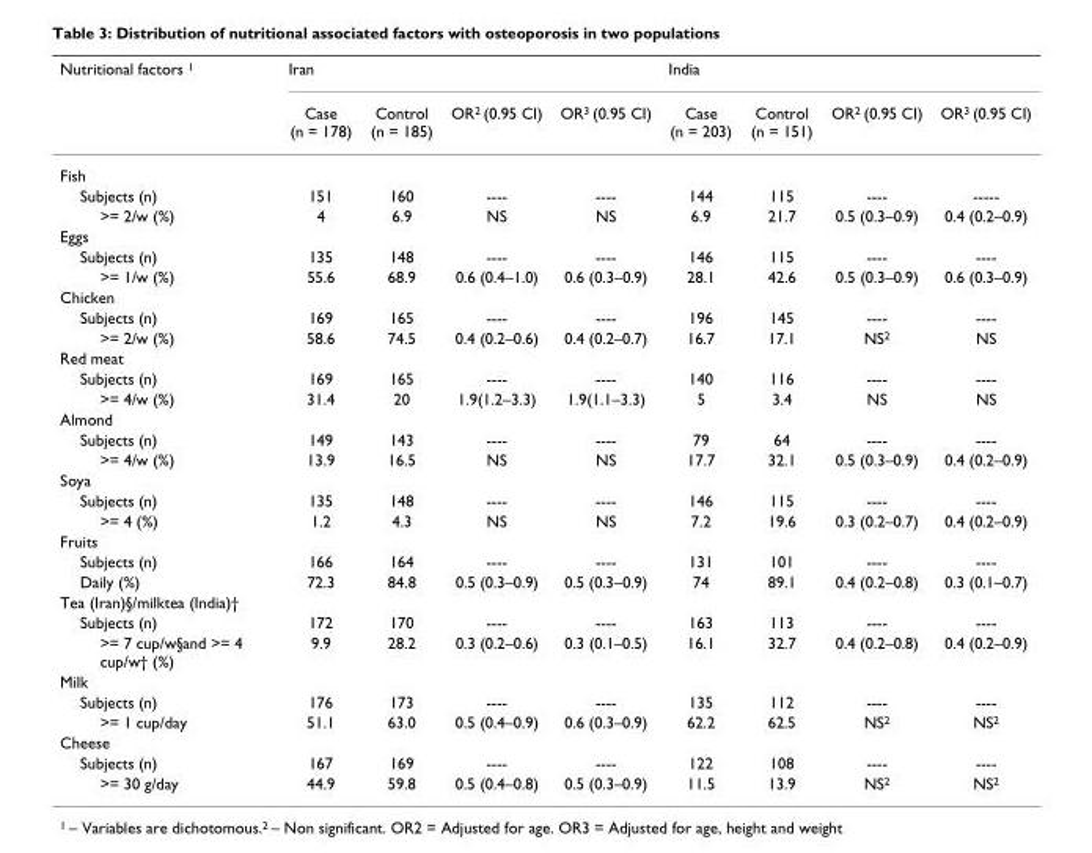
<table><thead><tr><td rowspan="2">Nutritional factors <sup>1</sup></td><td colspan="4">Iran</td><td colspan="4">India</td></tr><tr><td>Case (n = 178)</td><td>Control (n = 185)</td><td>OR<sup>2</sup> (0.95 CI)</td><td>OR<sup>3</sup> (0.95 CI)</td><td>Case (n = 203)</td><td>Control (n = 151)</td><td>OR<sup>2</sup> (0.95 CI)</td><td>OR<sup>3</sup> (0.95 CI)</td></tr></thead><tbody><tr><td colspan="9">Fish</td></tr><tr><td>Subjects (n)</td><td>151</td><td>160</td><td>----</td><td>----</td><td>144</td><td>115</td><td>----</td><td>-----</td></tr><tr><td>&gt;= 2/w (%)</td><td>4</td><td>6.9</td><td>NS</td><td>NS</td><td>6.9</td><td>21.7</td><td>0.5 (0.3–0.9)</td><td>0.4 (0.2–0.9)</td></tr><tr><td colspan="9">Eggs</td></tr><tr><td>Subjects (n)</td><td>135</td><td>148</td><td>----</td><td>----</td><td>146</td><td>115</td><td>----</td><td>----</td></tr><tr><td>&gt;= 1/w (%)</td><td>55.6</td><td>68.9</td><td>0.6 (0.4–1.0)</td><td>0.6 (0.3–0.9)</td><td>28.1</td><td>42.6</td><td>0.5 (0.3–0.9)</td><td>0.6 (0.3–0.9)</td></tr><tr><td colspan="9">Chicken</td></tr><tr><td>Subjects (n)</td><td>169</td><td>165</td><td>----</td><td>----</td><td>196</td><td>145</td><td>----</td><td>----</td></tr><tr><td>&gt;= 2/w (%)</td><td>58.6</td><td>74.5</td><td>0.4 (0.2–0.6)</td><td>0.4 (0.2–0.7)</td><td>16.7</td><td>17.1</td><td>NS<sup>2</sup></td><td>NS</td></tr><tr><td colspan="9">Red meat</td></tr><tr><td>Subjects (n)</td><td>169</td><td>165</td><td>----</td><td>----</td><td>140</td><td>116</td><td>----</td><td>----</td></tr><tr><td>&gt;= 4/w (%)</td><td>31.4</td><td>20</td><td>1.9(1.2–3.3)</td><td>1.9(1.1–3.3)</td><td>5</td><td>3.4</td><td>NS</td><td>NS</td></tr><tr><td colspan="9">Almond</td></tr><tr><td>Subjects (n)</td><td>149</td><td>143</td><td>----</td><td>----</td><td>79</td><td>64</td><td>----</td><td>----</td></tr><tr><td>&gt;= 4/w (%)</td><td>13.9</td><td>16.5</td><td>NS</td><td>NS</td><td>17.7</td><td>32.1</td><td>0.5 (0.3–0.9)</td><td>0.4 (0.2–0.9)</td></tr><tr><td colspan="9">Soya</td></tr><tr><td>Subjects (n)</td><td>135</td><td>148</td><td>----</td><td>----</td><td>146</td><td>115</td><td>----</td><td>----</td></tr><tr><td>&gt;= 4 (%)</td><td>1.2</td><td>4.3</td><td>NS</td><td>NS</td><td>7.2</td><td>19.6</td><td>0.3 (0.2–0.7)</td><td>0.4 (0.2–0.9)</td></tr><tr><td colspan="9">Fruits</td></tr><tr><td>Subjects (n)</td><td>166</td><td>164</td><td>----</td><td>----</td><td>131</td><td>101</td><td>----</td><td>----</td></tr><tr><td>Daily (%)</td><td>72.3</td><td>84.8</td><td>0.5 (0.3–0.9)</td><td>0.5 (0.3–0.9)</td><td>74</td><td>89.1</td><td>0.4 (0.2–0.8)</td><td>0.3 (0.1–0.7)</td></tr><tr><td colspan="9">Tea (Iran)§/milktea (India)†</td></tr><tr><td>Subjects (n)</td><td>172</td><td>170</td><td>----</td><td>----</td><td>163</td><td>113</td><td>----</td><td>----</td></tr><tr><td>&gt;= 7 cup/w§and &gt;= 4 cup/w† (%)</td><td>9.9</td><td>28.2</td><td>0.3 (0.2–0.6)</td><td>0.3 (0.1–0.5)</td><td>16.1</td><td>32.7</td><td>0.4 (0.2–0.8)</td><td>0.4 (0.2–0.9)</td></tr><tr><td colspan="9">Milk</td></tr><tr><td>Subjects (n)</td><td>176</td><td>173</td><td>----</td><td>----</td><td>135</td><td>112</td><td>----</td><td>----</td></tr><tr><td>&gt;= 1 cup/day</td><td>51.1</td><td>63.0</td><td>0.5 (0.4–0.9)</td><td>0.6 (0.3–0.9)</td><td>62.2</td><td>62.5</td><td>NS<sup>2</sup></td><td>NS<sup>2</sup></td></tr><tr><td colspan="9">Cheese</td></tr><tr><td>Subjects (n)</td><td>167</td><td>169</td><td>----</td><td>----</td><td>122</td><td>108</td><td>----</td><td>----</td></tr><tr><td>&gt;= 30 g/day</td><td>44.9</td><td>59.8</td><td>0.5 (0.4–0.8)</td><td>0.5 (0.3–0.9)</td><td>11.5</td><td>13.9</td><td>NS<sup>2</sup></td><td>NS<sup>2</sup></td></tr></tbody></table>